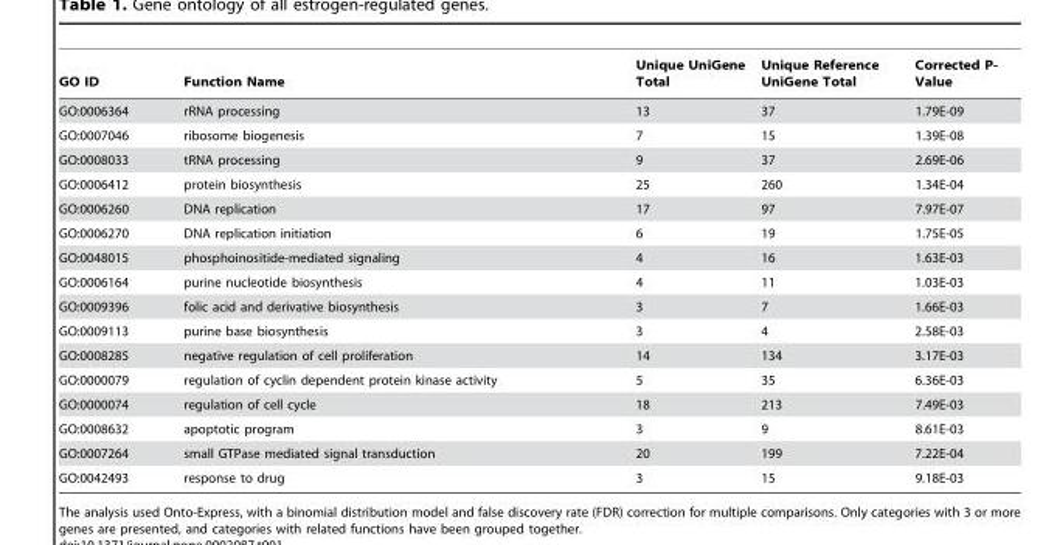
<table><thead><tr><td>GO ID</td><td>Function Name</td><td>Unique UniGene Total</td><td>Unique Reference UniGene Total</td><td>Corrected P- Value</td></tr></thead><tbody><tr><td>GO:0006364</td><td>rRNA processing</td><td>13</td><td>37</td><td>1.79E-09</td></tr><tr><td>GO:0007046</td><td>ribosome biogenesis</td><td>7</td><td>15</td><td>1.39E-08</td></tr><tr><td>GO:0008033</td><td>tRNA processing</td><td>9</td><td>37</td><td>2.69E-06</td></tr><tr><td>GO:0006412</td><td>protein biosynthesis</td><td>25</td><td>260</td><td>1.34E-04</td></tr><tr><td>GO:0006260</td><td>DNA replication</td><td>17</td><td>97</td><td>7.97E-07</td></tr><tr><td>GO:0006270</td><td>DNA replication initiation</td><td>6</td><td>19</td><td>1.75E-05</td></tr><tr><td>GO:0048015</td><td>phosphoinositide-mediated signaling</td><td>4</td><td>16</td><td>1.63E-03</td></tr><tr><td>GO:0006164</td><td>purine nucleotide biosynthesis</td><td>4</td><td>11</td><td>1.03E-03</td></tr><tr><td>GO:0009396</td><td>folic acid and derivative biosynthesis</td><td>3</td><td>7</td><td>1.66E-03</td></tr><tr><td>GO:0009113</td><td>purine base biosynthesis</td><td>3</td><td>4</td><td>2.58E-03</td></tr><tr><td>GO:0008285</td><td>negative regulation of cell proliferation</td><td>14</td><td>134</td><td>3.17E-03</td></tr><tr><td>GO:0000079</td><td>regulation of cyclin dependent protein kinase activity</td><td>5</td><td>35</td><td>6.36E-03</td></tr><tr><td>GO:0000074</td><td>regulation of cell cycle</td><td>18</td><td>213</td><td>7.49E-03</td></tr><tr><td>GO:0008632</td><td>apoptotic program</td><td>3</td><td>9</td><td>8.61E-03</td></tr><tr><td>GO:0007264</td><td>small GTPase mediated signal transduction</td><td>20</td><td>199</td><td>7.22E-04</td></tr><tr><td>GO:0042493</td><td>response to drug</td><td>3</td><td>15</td><td>9.18E-03</td></tr></tbody></table>